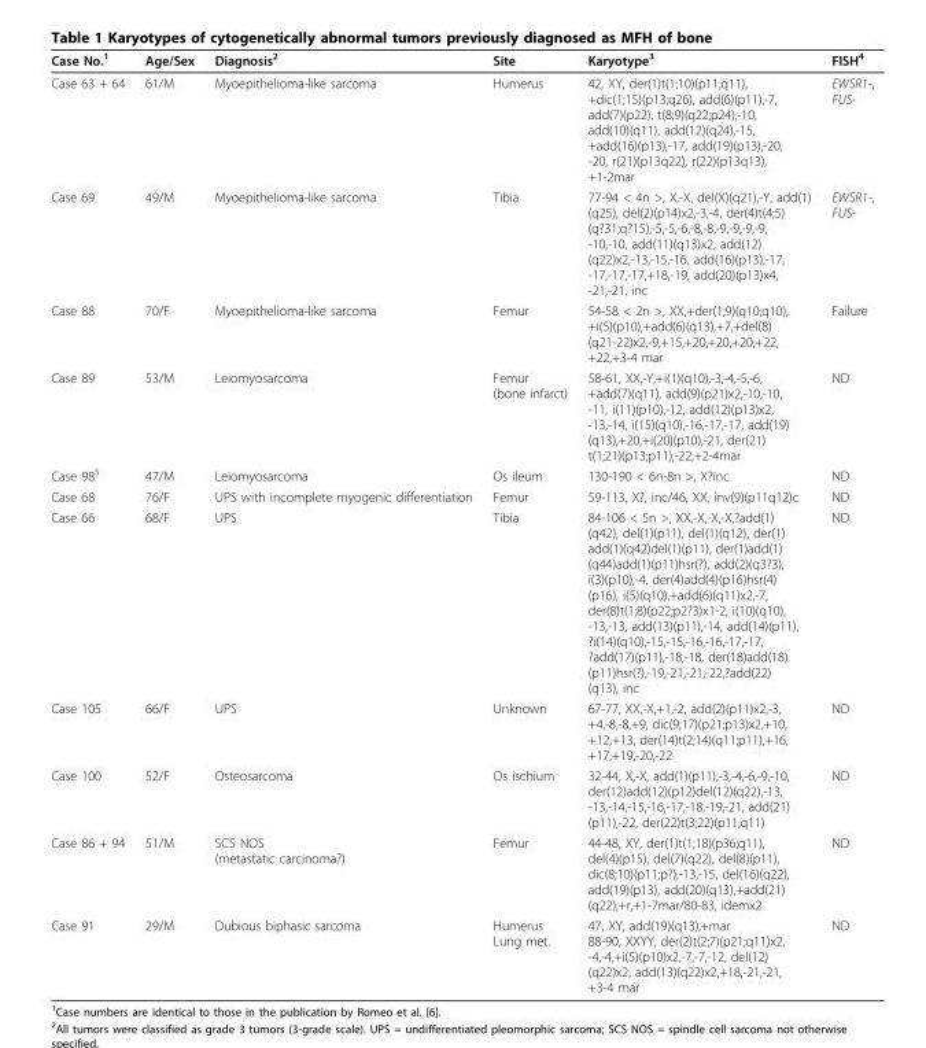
<table><thead><tr><td>Case No.<sup>1</sup></td><td>Age/Sex</td><td>Diagnosis<sup>2</sup></td><td>Site</td><td>Karyotype<sup>3</sup></td><td>FISH<sup>4</sup></td></tr></thead><tbody><tr><td>Case 63 + 64</td><td>61/M</td><td>Myoepithelioma-like sarcoma</td><td>Humerus</td><td>42, XY, der(1)t(1;10)(p11;q11), +dic(1;15)(p13;q26), add(6)(p11),-7, add(7)(p22), t(8;9)(q22;p24),-10, add(10)(q11), add(12)(q24),-15, +add(16)(p13),-17, add(19)(p13),-20, -20, r(21)(p13q22), r(22)(p13q13), +1-2mar</td><td>EWSR1-, FUS-</td></tr><tr><td>Case 69</td><td>49/M</td><td>Myoepithelioma-like sarcoma</td><td>Tibia</td><td>77-94 &lt; 4n &gt;, X,-X, del(X)(q21),-Y, add(1) (q25), del(2)(p14)x2,-3,-4, der(4)t(4;5) (q?31;q?15),-5,-5,-6,-8,-8,-9,-9,-9,-9, -10,-10, add(11)(q13)x2, add(12) (q22)x2,-13,-15,-16, add(16)(p13),-17, -17,-17,-17,+18,-19, add(20)(p13)x4, -21,-21, inc</td><td>EWSR1-, FUS-</td></tr><tr><td>Case 88</td><td>70/F</td><td>Myoepithelioma-like sarcoma</td><td>Femur</td><td>54-58 &lt; 2n &gt;, XX,+der(1;9)(q10;q10), +i(5)(p10),+add(6)(q13),+7,+del(8) (q21-22)x2,-9,+15,+20,+20,+20,+22, +22,+3-4 mar</td><td>Failure</td></tr><tr><td>Case 89</td><td>53/M</td><td>Leiomyosarcoma</td><td>Femur (bone infarct)</td><td>58-61, XX,-Y,+i(1)(q10),-3,-4,-5,-6, +add(7)(q11), add(9)(p21)x2,-10,-10, -11, i(11)(p10),-12, add(12)(p13)x2, -13,-14, i(15)(q10),-16,-17,-17, add(19) (q13),+20,+i(20)(p10),-21, der(21) t(1;21)(p13;p11),-22,+2-4mar</td><td>ND</td></tr><tr><td>Case 98<sup>5</sup></td><td>47/M</td><td>Leiomyosarcoma</td><td>Os ileum</td><td>130-190 &lt; 6n-8n &gt;, X?inc</td><td>ND</td></tr><tr><td>Case 68</td><td>76/F</td><td>UPS with incomplete myogenic differentiation</td><td>Femur</td><td>59-113, X?, inc/46, XX, inv(9)(p11q12)c</td><td>ND</td></tr><tr><td>Case 66</td><td>68/F</td><td>UPS</td><td>Tibia</td><td>84-106 &lt; 5n &gt;, XX,-X,-X,-X,?add(1) (q42), del(1)(p11), del(1)(q12), der(1) add(1)(q42)del(1)(p11), der(1)add(1) (q44)add(1)(p11)hsr(?), add(2)(q3?3), i(3)(p10),-4, der(4)add(4)(p16)hsr(4) (p16), i(5)(q10),+add(6)(q11)x2,-7, der(8)t(1;8)(p22;p2?3)x1-2, i(10)(q10), -13,-13, add(13)(p11),-14, add(14)(p11), ?i(14)(q10),-15,-15,-16,-16,-17,-17, ?add(17)(p11),-18,-18, der(18)add(18) (p11)hsr(?),-19,-21,-21,-22,?add(22) (q13), inc</td><td>ND</td></tr><tr><td>Case 105</td><td>66/F</td><td>UPS</td><td>Unknown</td><td>67-77, XX,-X,+1,-2, add(2)(p11)x2,-3, +4,-8,-8,+9, dic(9;17)(p21;p13)x2,+10, +12,+13, der(14)t(2;14)(q11;p11),+16, +17,+19,-20,-22</td><td>ND</td></tr><tr><td>Case 100</td><td>52/F</td><td>Osteosarcoma</td><td>Os ischium</td><td>32-44, X,-X, add(1)(p11),-3,-4,-6,-9,-10, der(12)add(12)(p12)del(12)(q22),-13, -13,-14,-15,-16,-17,-18,-19,-21, add(21) (p11),-22, der(22)t(3;22)(p11;q11)</td><td>ND</td></tr><tr><td>Case 86 + 94</td><td>51/M</td><td>SCS NOS (metastatic carcinoma?)</td><td>Femur</td><td>44-48, XY, der(1)t(1;18)(p36;q11), del(4)(p15), del(7)(q22), del(8)(p11), dic(8;10)(p11;p?),-13,-15, del(16)(q22), add(19)(p13), add(20)(q13),+add(21) (q22),+r,+1-7mar/80-83, idemx2</td><td>ND</td></tr><tr><td>Case 91</td><td>29/M</td><td>Dubious biphasic sarcoma</td><td>Humerus Lung met.</td><td>47, XY, add(19)(q13),+mar 88-90, XXYY, der(2)t(2;7)(p21;q11)x2, -4,-4,+i(5)(p10)x2,-7,-7,-12, del(12) (q22)x2, add(13)(q22)x2,+18,-21,-21, +3-4 mar</td><td>ND</td></tr></tbody></table>